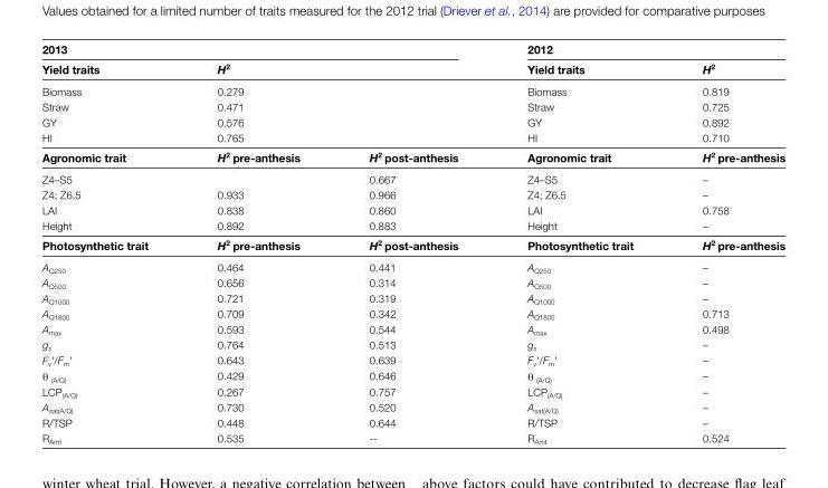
<table><thead><tr><td colspan="3">2013</td><td colspan="2">2012</td></tr><tr><td>Yield traits</td><td colspan="2">H<sup>2</sup></td><td>Yield traits</td><td>H<sup>2</sup></td></tr></thead><tbody><tr><td>Biomass</td><td colspan="2">0.279</td><td>Biomass</td><td>0.819</td></tr><tr><td>Straw</td><td colspan="2">0.471</td><td>Straw</td><td>0.725</td></tr><tr><td>GY</td><td colspan="2">0.576</td><td>GY</td><td>0.892</td></tr><tr><td>HI</td><td colspan="2">0.765</td><td>HI</td><td>0.710</td></tr><tr><td>Agronomic trait</td><td>H<sup>2</sup> pre-anthesis</td><td>H<sup>2</sup> post-anthesis</td><td>Agronomic trait</td><td>H<sup>2</sup> pre-anthesis</td></tr><tr><td>Z4–S5</td><td></td><td>0.667</td><td>Z4–S5</td><td>–</td></tr><tr><td>Z4; Z6.5</td><td>0.933</td><td>0.966</td><td>Z4; Z6.5</td><td>–</td></tr><tr><td>LAI</td><td>0.838</td><td>0.860</td><td>LAI</td><td>0.758</td></tr><tr><td>Height</td><td>0.892</td><td>0.883</td><td>Height</td><td>–</td></tr><tr><td>Photosynthetic trait</td><td>H<sup>2</sup> pre-anthesis</td><td>H<sup>2</sup> post-anthesis</td><td>Photosynthetic trait</td><td>H<sup>2</sup> pre-anthesis</td></tr><tr><td>A<sub>Q250</sub></td><td>0.464</td><td>0.441</td><td>A<sub>Q250</sub></td><td>–</td></tr><tr><td>A<sub>Q500</sub></td><td>0.656</td><td>0.314</td><td>A<sub>Q500</sub></td><td>–</td></tr><tr><td>A<sub>Q1000</sub></td><td>0.721</td><td>0.319</td><td>A<sub>Q1000</sub></td><td>–</td></tr><tr><td>A<sub>Q1800</sub></td><td>0.709</td><td>0.342</td><td>A<sub>Q1800</sub></td><td>0.713</td></tr><tr><td>A<sub>max</sub></td><td>0.593</td><td>0.544</td><td>A<sub>max</sub></td><td>0.498</td></tr><tr><td>g<sub>s</sub></td><td>0.764</td><td>0.513</td><td>g<sub>s</sub></td><td>–</td></tr><tr><td>F<sub>v</sub>&#x27;/F<sub>m</sub>&#x27;</td><td>0.643</td><td>0.639</td><td>F<sub>v</sub>&#x27;/F<sub>m</sub>&#x27;</td><td>–</td></tr><tr><td>θ <sub>(A/Q)</sub></td><td>0.429</td><td>0.646</td><td>θ <sub>(A/Q)</sub></td><td>–</td></tr><tr><td>LCP<sub>(A/Q)</sub></td><td>0.267</td><td>0.757</td><td>LCP<sub>(A/Q)</sub></td><td>–</td></tr><tr><td>A<sub>sat(A/Q)</sub></td><td>0.730</td><td>0.520</td><td>A<sub>sat(A/Q)</sub></td><td>–</td></tr><tr><td>R/TSP</td><td>0.448</td><td>0.644</td><td>R/TSP</td><td>–</td></tr><tr><td>R<sub>Amt</sub></td><td>0.535</td><td>--</td><td>R<sub>Amt</sub></td><td>0.524</td></tr></tbody></table>